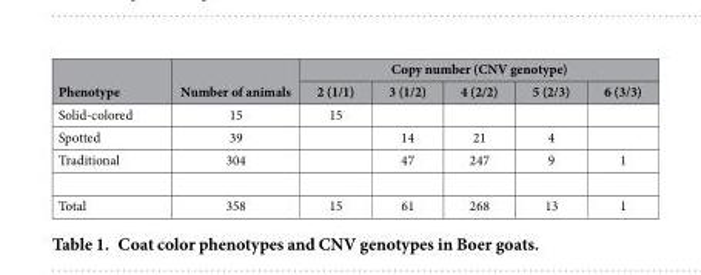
<table><thead><tr><td rowspan="2">Phenotype</td><td rowspan="2">Number of animals</td><td colspan="5">Copy number (CNV genotype)</td></tr><tr><td>2 (1/1)</td><td>3 (1/2)</td><td>4 (2/2)</td><td>5 (2/3)</td><td>6 (3/3)</td></tr></thead><tbody><tr><td>Solid-colored</td><td>15</td><td>15</td><td></td><td></td><td></td><td></td></tr><tr><td>Spotted</td><td>39</td><td></td><td>14</td><td>21</td><td>4</td><td></td></tr><tr><td>Traditional</td><td>304</td><td></td><td>47</td><td>247</td><td>9</td><td>1</td></tr><tr><td>Total</td><td>358</td><td>15</td><td>61</td><td>268</td><td>13</td><td>1</td></tr></tbody></table>